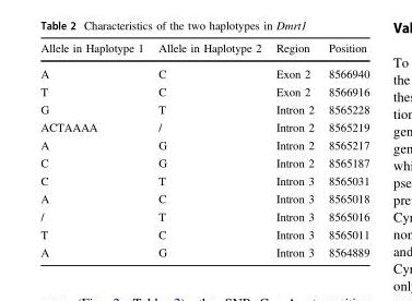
<table><thead><tr><td>Allele in Haplotype 1</td><td>Allele in Haplotype 2</td><td>Region</td><td>Position</td></tr></thead><tbody><tr><td>A</td><td>C</td><td>Exon 2</td><td>8566940</td></tr><tr><td>T</td><td>C</td><td>Exon 2</td><td>8566916</td></tr><tr><td>G</td><td>T</td><td>Intron 2</td><td>8565228</td></tr><tr><td>ACTAAAA</td><td>/</td><td>Intron 2</td><td>8565219</td></tr><tr><td>A</td><td>G</td><td>Intron 2</td><td>8565217</td></tr><tr><td>C</td><td>G</td><td>Intron 2</td><td>8565187</td></tr><tr><td>C</td><td>T</td><td>Intron 3</td><td>8565031</td></tr><tr><td>A</td><td>C</td><td>Intron 3</td><td>8565018</td></tr><tr><td>/</td><td>T</td><td>Intron 3</td><td>8565016</td></tr><tr><td>T</td><td>C</td><td>Intron 3</td><td>8565011</td></tr><tr><td>A</td><td>G</td><td>Intron 3</td><td>8564889</td></tr></tbody></table>